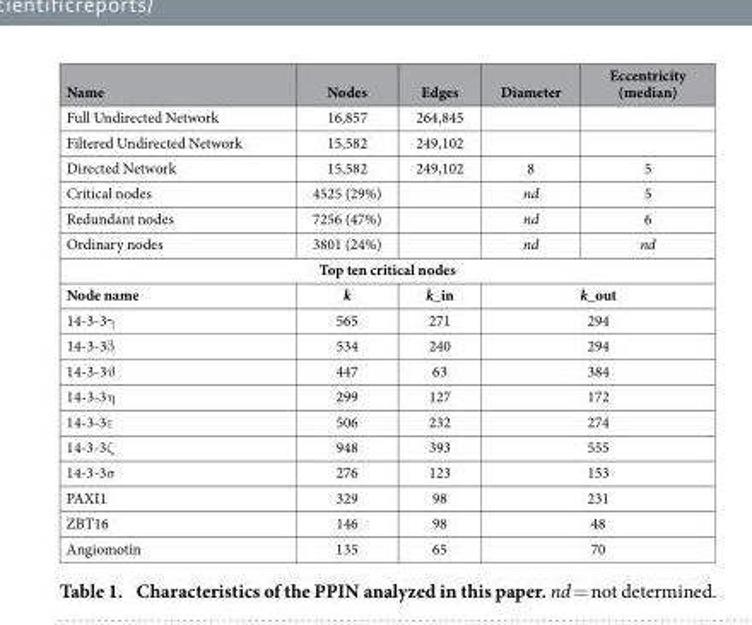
<table><thead><tr><td>Name</td><td>Nodes</td><td>Edges</td><td>Diameter</td><td>Eccentricity (median)</td></tr></thead><tbody><tr><td>Full Undirected Network</td><td>16,857</td><td>264,845</td><td></td><td></td></tr><tr><td>Filtered Undirected Network</td><td>15,582</td><td>249,102</td><td></td><td></td></tr><tr><td>Directed Network</td><td>15,582</td><td>249,102</td><td>8</td><td>5</td></tr><tr><td>Critical nodes</td><td>4525 (29%)</td><td></td><td>nd</td><td>5</td></tr><tr><td>Redundant nodes</td><td>7256 (47%)</td><td></td><td>nd</td><td>6</td></tr><tr><td>Ordinary nodes</td><td>3801 (24%)</td><td></td><td>nd</td><td>nd</td></tr><tr><td colspan="5">Top ten critical nodes</td></tr><tr><td>Node name</td><td>k</td><td>k_in</td><td colspan="2">k_out</td></tr><tr><td>14-3-3γ</td><td>565</td><td>271</td><td colspan="2">294</td></tr><tr><td>14-3-3β</td><td>534</td><td>240</td><td colspan="2">294</td></tr><tr><td>14-3-3ϑ</td><td>447</td><td>63</td><td colspan="2">384</td></tr><tr><td>14-3-3η</td><td>299</td><td>127</td><td colspan="2">172</td></tr><tr><td>14-3-3ε</td><td>506</td><td>232</td><td colspan="2">274</td></tr><tr><td>14-3-3ζ</td><td>948</td><td>393</td><td colspan="2">555</td></tr><tr><td>14-3-3σ</td><td>276</td><td>123</td><td colspan="2">153</td></tr><tr><td>PAXI1</td><td>329</td><td>98</td><td colspan="2">231</td></tr><tr><td>ZBT16</td><td>146</td><td>98</td><td colspan="2">48</td></tr><tr><td>Angiomotin</td><td>135</td><td>65</td><td colspan="2">70</td></tr></tbody></table>